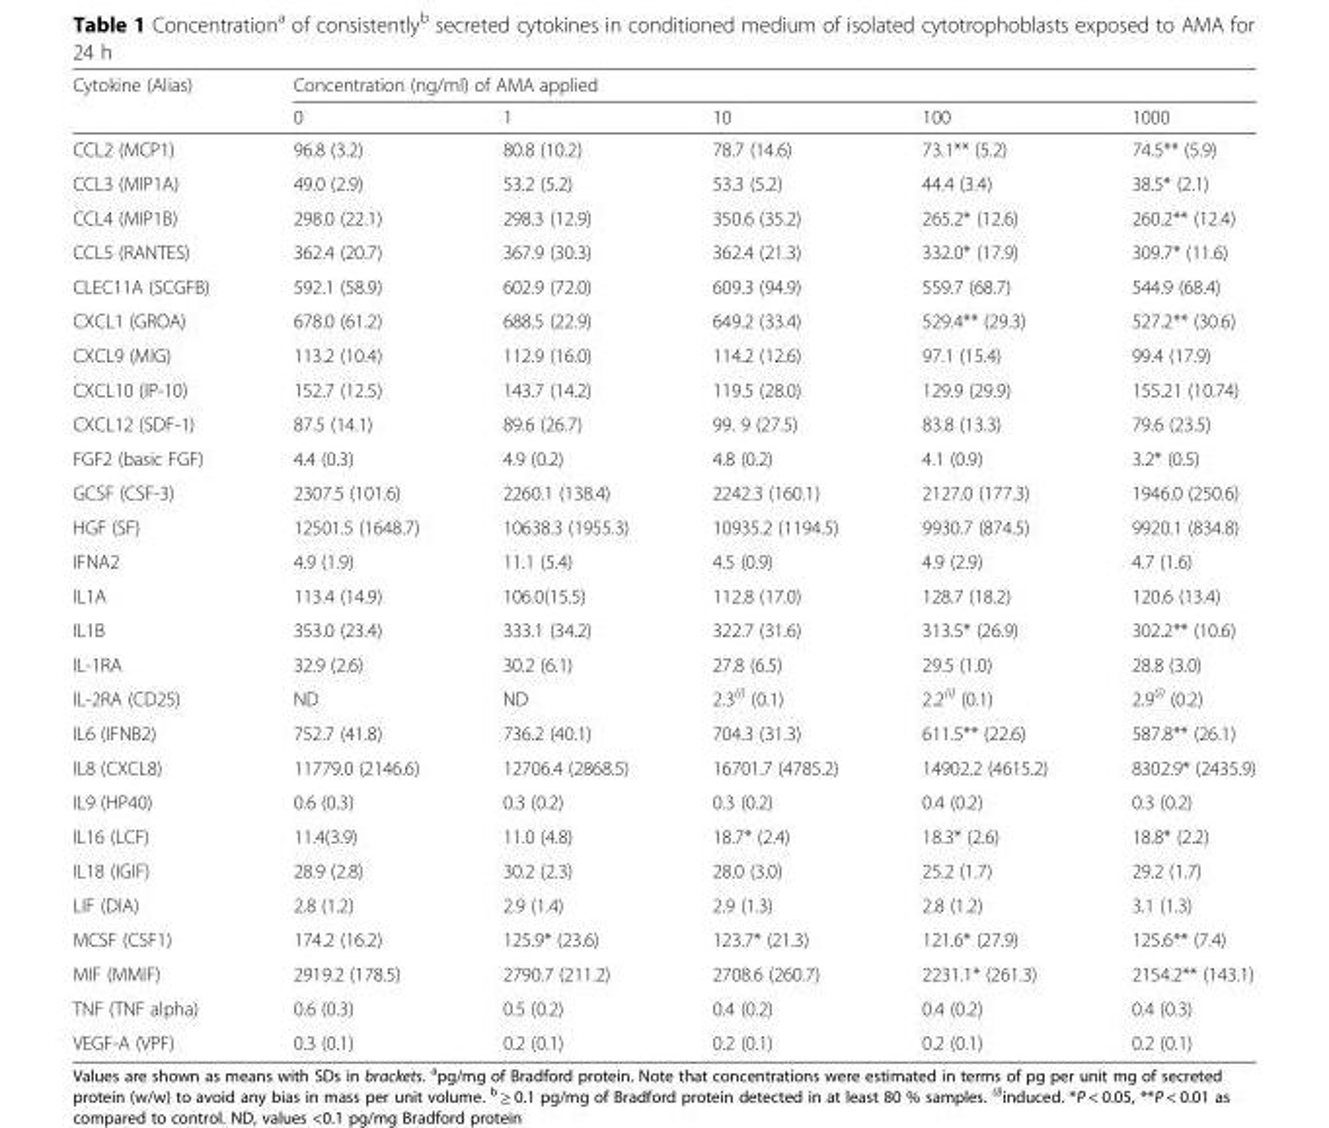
<table><thead><tr><td rowspan="2">Cytokine (Alias)</td><td colspan="5">Concentration (ng/ml) of AMA applied</td></tr><tr><td>0</td><td>1</td><td>10</td><td>100</td><td>1000</td></tr></thead><tbody><tr><td>CCL2 (MCP1)</td><td>96.8 (3.2)</td><td>80.8 (10.2)</td><td>78.7 (14.6)</td><td>73.1** (5.2)</td><td>74.5** (5.9)</td></tr><tr><td>CCL3 (MIP1Α)</td><td>49.0 (2.9)</td><td>53.2 (5.2)</td><td>53.3 (5.2)</td><td>44.4 (3.4)</td><td>38.5* (2.1)</td></tr><tr><td>CCL4 (MIP1B)</td><td>298.0 (22.1)</td><td>298.3 (12.9)</td><td>350.6 (35.2)</td><td>265.2* (12.6)</td><td>260.2** (12.4)</td></tr><tr><td>CCL5 (RANTES)</td><td>362.4 (20.7)</td><td>367.9 (30.3)</td><td>362.4 (21.3)</td><td>332.0* (17.9)</td><td>309.7* (11.6)</td></tr><tr><td>CLEC11A (SCGFB)</td><td>592.1 (58.9)</td><td>602.9 (72.0)</td><td>609.3 (94.9)</td><td>559.7 (68.7)</td><td>544.9 (68.4)</td></tr><tr><td>CXCL1 (GROΑ)</td><td>678.0 (61.2)</td><td>688.5 (22.9)</td><td>649.2 (33.4)</td><td>529.4** (29.3)</td><td>527.2** (30.6)</td></tr><tr><td>CXCL9 (MIG)</td><td>113.2 (10.4)</td><td>112.9 (16.0)</td><td>114.2 (12.6)</td><td>97.1 (15.4)</td><td>99.4 (17.9)</td></tr><tr><td>CXCL10 (IP-10)</td><td>152.7 (12.5)</td><td>143.7 (14.2)</td><td>119.5 (28.0)</td><td>129.9 (29.9)</td><td>155.21 (10.74)</td></tr><tr><td>CXCL12 (SDF-1)</td><td>87.5 (14.1)</td><td>89.6 (26.7)</td><td>99. 9 (27.5)</td><td>83.8 (13.3)</td><td>79.6 (23.5)</td></tr><tr><td>FGF2 (basic FGF)</td><td>4.4 (0.3)</td><td>4.9 (0.2)</td><td>4.8 (0.2)</td><td>4.1 (0.9)</td><td>3.2* (0.5)</td></tr><tr><td>GCSF (CSF-3)</td><td>2307.5 (101.6)</td><td>2260.1 (138.4)</td><td>2242.3 (160.1)</td><td>2127.0 (177.3)</td><td>1946.0 (250.6)</td></tr><tr><td>HGF (SF)</td><td>12501.5 (1648.7)</td><td>10638.3 (1955.3)</td><td>10935.2 (1194.5)</td><td>9930.7 (874.5)</td><td>9920.1 (834.8)</td></tr><tr><td>IFNA2</td><td>4.9 (1.9)</td><td>11.1 (5.4)</td><td>4.5 (0.9)</td><td>4.9 (2.9)</td><td>4.7 (1.6)</td></tr><tr><td>IL1A</td><td>113.4 (14.9)</td><td>106.0(15.5)</td><td>112.8 (17.0)</td><td>128.7 (18.2)</td><td>120.6 (13.4)</td></tr><tr><td>IL1B</td><td>353.0 (23.4)</td><td>333.1 (34.2)</td><td>322.7 (31.6)</td><td>313.5* (26.9)</td><td>302.2** (10.6)</td></tr><tr><td>IL-1RA</td><td>32.9 (2.6)</td><td>30.2 (6.1)</td><td>27.8 (6.5)</td><td>29.5 (1.0)</td><td>28.8 (3.0)</td></tr><tr><td>IL-2RA (CD25)</td><td>ND</td><td>ND</td><td>2.3<sup>(i)</sup> (0.1)</td><td>2.2<sup>(i)</sup> (0.1)</td><td>2.9<sup>(i)</sup> (0.2)</td></tr><tr><td>IL6 (IFNΒ2)</td><td>752.7 (41.8)</td><td>736.2 (40.1)</td><td>704.3 (31.3)</td><td>611.5** (22.6)</td><td>587.8** (26.1)</td></tr><tr><td>IL8 (CXCL8)</td><td>11779.0 (2146.6)</td><td>12706.4 (2868.5)</td><td>16701.7 (4785.2)</td><td>14902.2 (4615.2)</td><td>8302.9* (2435.9)</td></tr><tr><td>IL9 (HP40)</td><td>0.6 (0.3)</td><td>0.3 (0.2)</td><td>0.3 (0.2)</td><td>0.4 (0.2)</td><td>0.3 (0.2)</td></tr><tr><td>IL16 (LCF)</td><td>11.4(3.9)</td><td>11.0 (4.8)</td><td>18.7* (2.4)</td><td>18.3* (2.6)</td><td>18.8* (2.2)</td></tr><tr><td>IL18 (IGIF)</td><td>28.9 (2.8)</td><td>30.2 (2.3)</td><td>28.0 (3.0)</td><td>25.2 (1.7)</td><td>29.2 (1.7)</td></tr><tr><td>LIF (DIA)</td><td>2.8 (1.2)</td><td>2.9 (1.4)</td><td>2.9 (1.3)</td><td>2.8 (1.2)</td><td>3.1 (1.3)</td></tr><tr><td>MCSF (CSF1)</td><td>174.2 (16.2)</td><td>125.9* (23.6)</td><td>123.7* (21.3)</td><td>121.6* (27.9)</td><td>125.6** (7.4)</td></tr><tr><td>MIF (MMIF)</td><td>2919.2 (178.5)</td><td>2790.7 (211.2)</td><td>2708.6 (260.7)</td><td>2231.1* (261.3)</td><td>2154.2** (143.1)</td></tr><tr><td>TNF (TNF alpha)</td><td>0.6 (0.3)</td><td>0.5 (0.2)</td><td>0.4 (0.2)</td><td>0.4 (0.2)</td><td>0.4 (0.3)</td></tr><tr><td>VEGF-A (VPF)</td><td>0.3 (0.1)</td><td>0.2 (0.1)</td><td>0.2 (0.1)</td><td>0.2 (0.1)</td><td>0.2 (0.1)</td></tr></tbody></table>